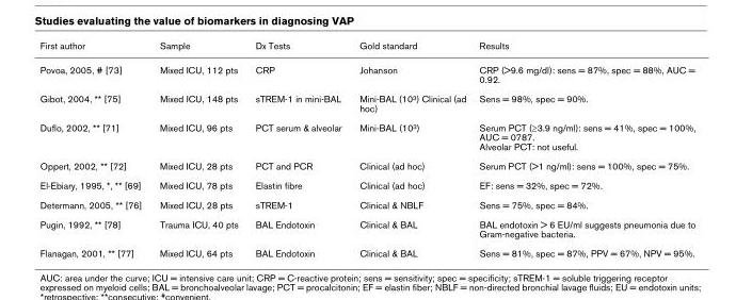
<table><thead><tr><td>First author</td><td>Sample</td><td>Dx Tests</td><td>Gold standard</td><td>Results</td></tr></thead><tbody><tr><td>Povoa, 2005, # [73]</td><td>Mixed ICU, 112 pts</td><td>CRP</td><td>Johanson</td><td>CRP (&gt;9.6 mg/dl): sens = 87%, spec = 88%, AUC = 0.92.</td></tr><tr><td>Gibot, 2004, ** [75]</td><td>Mixed ICU, 148 pts</td><td>sTREM-1 in mini-BAL</td><td>Mini-BAL (10<sup>3</sup>) Clinical (ad hoc)</td><td>Sens = 98%, spec = 90%.</td></tr><tr><td>Duflo, 2002, ** [71]</td><td>Mixed ICU, 96 pts</td><td>PCT serum &amp; alveolar</td><td>Mini-BAL (10<sup>3</sup>)</td><td>Serum PCT (≥3.9 ng/ml): sens = 41%, spec = 100%, AUC = 0787. Alveolar PCT: not useful.</td></tr><tr><td>Oppert, 2002, ** [72]</td><td>Mixed ICU, 28 pts</td><td>PCT and PCR</td><td>Clinical (ad hoc)</td><td>Serum PCT (&gt;1 ng/ml): sens = 100%, spec = 75%.</td></tr><tr><td>El-Ebiary, 1995, *, ** [69]</td><td>Mixed ICU, 78 pts</td><td>Elastin fibre</td><td>Clinical (ad hoc)</td><td>EF: sens = 32%, spec = 72%.</td></tr><tr><td>Determann, 2005, ** [76]</td><td>Mixed ICU, 28 pts</td><td>sTREM-1</td><td>Clinical &amp; NBLF</td><td>Sens = 75%, spec = 84%.</td></tr><tr><td>Pugin, 1992, ** [78]</td><td>Trauma ICU, 40 pts</td><td>BAL Endotoxin</td><td>Clinical &amp; BAL</td><td>BAL endotoxin &gt; 6 EU/ml suggests pneumonia due to Gram-negative bacteria.</td></tr><tr><td>Flanagan, 2001, ** [77]</td><td>Mixed ICU, 64 pts</td><td>BAL Endotoxin</td><td>Clinical &amp; BAL</td><td>Sens = 81%, spec = 87%, PPV = 67%, NPV = 95%.</td></tr></tbody></table>